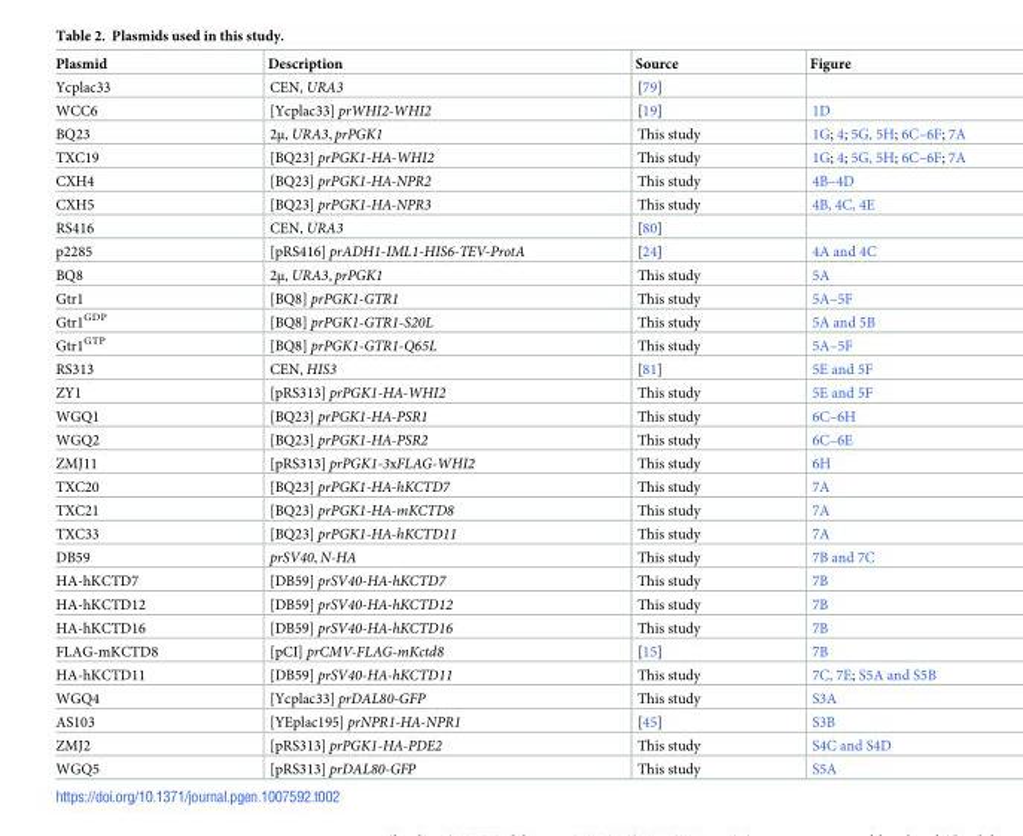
<table><thead><tr><td>Plasmid</td><td>Description</td><td>Source</td><td>Figure</td></tr></thead><tbody><tr><td>Ycplac33</td><td>CEN, URA3</td><td>[79]</td><td></td></tr><tr><td>WCC6</td><td>[Ycplac33] prWHI2-WHI2</td><td>[19]</td><td>1D</td></tr><tr><td>BQ23</td><td>2μ, URA3, prPGK1</td><td>This study</td><td>1G; 4; 5G, 5H; 6C–6F; 7A</td></tr><tr><td>TXC19</td><td>[BQ23] prPGK1-HA-WHI2</td><td>This study</td><td>1G; 4; 5G, 5H; 6C–6F; 7A</td></tr><tr><td>CXH4</td><td>[BQ23] prPGK1-HA-NPR2</td><td>This study</td><td>4B–4D</td></tr><tr><td>CXH5</td><td>[BQ23] prPGK1-HA-NPR3</td><td>This study</td><td>4B, 4C, 4E</td></tr><tr><td>RS416</td><td>CEN, URA3</td><td>[80]</td><td></td></tr><tr><td>p2285</td><td>[pRS416] prADH1-IML1-HIS6-TEV-ProtA</td><td>[24]</td><td>4A and 4C</td></tr><tr><td>BQ8</td><td>2μ, URA3, prPGK1</td><td>This study</td><td>5A</td></tr><tr><td>Gtr1</td><td>[BQ8] prPGK1-GTR1</td><td>This study</td><td>5A–5F</td></tr><tr><td>Gtr1<sup>GDP</sup></td><td>[BQ8] prPGK1-GTR1-S20L</td><td>This study</td><td>5A and 5B</td></tr><tr><td>Gtr1<sup>GTP</sup></td><td>[BQ8] prPGK1-GTR1-Q65L</td><td>This study</td><td>5A–5F</td></tr><tr><td>RS313</td><td>CEN, HIS3</td><td>[81]</td><td>5E and 5F</td></tr><tr><td>ZY1</td><td>[pRS313] prPGK1-HA-WHI2</td><td>This study</td><td>5E and 5F</td></tr><tr><td>WGQ1</td><td>[BQ23] prPGK1-HA-PSR1</td><td>This study</td><td>6C–6H</td></tr><tr><td>WGQ2</td><td>[BQ23] prPGK1-HA-PSR2</td><td>This study</td><td>6C–6E</td></tr><tr><td>ZMJ11</td><td>[pRS313] prPGK1-3xFLAG-WHI2</td><td>This study</td><td>6H</td></tr><tr><td>TXC20</td><td>[BQ23] prPGK1-HA-hKCTD7</td><td>This study</td><td>7A</td></tr><tr><td>TXC21</td><td>[BQ23] prPGK1-HA-mKCTD8</td><td>This study</td><td>7A</td></tr><tr><td>TXC33</td><td>[BQ23] prPGK1-HA-hKCTD11</td><td>This study</td><td>7A</td></tr><tr><td>DB59</td><td>prSV40, N-HA</td><td>This study</td><td>7B and 7C</td></tr><tr><td>HA-hKCTD7</td><td>[DB59] prSV40-HA-hKCTD7</td><td>This study</td><td>7B</td></tr><tr><td>HA-hKCTD12</td><td>[DB59] prSV40-HA-hKCTD12</td><td>This study</td><td>7B</td></tr><tr><td>HA-hKCTD16</td><td>[DB59] prSV40-HA-hKCTD16</td><td>This study</td><td>7B</td></tr><tr><td>FLAG-mKCTD8</td><td>[pCI] prCMV-FLAG-mKctd8</td><td>[15]</td><td>7B</td></tr><tr><td>HA-hKCTD11</td><td>[DB59] prSV40-HA-hKCTD11</td><td>This study</td><td>7C, 7E; S5A and S5B</td></tr><tr><td>WGQ4</td><td>[Ycplac33] prDAL80-GFP</td><td>This study</td><td>S3A</td></tr><tr><td>AS103</td><td>[YEplac195] prNPR1-HA-NPR1</td><td>[45]</td><td>S3B</td></tr><tr><td>ZMJ2</td><td>[pRS313] prPGK1-HA-PDE2</td><td>This study</td><td>S4C and S4D</td></tr><tr><td>WGQ5</td><td>[pRS313] prDAL80-GFP</td><td>This study</td><td>S5A</td></tr></tbody></table>